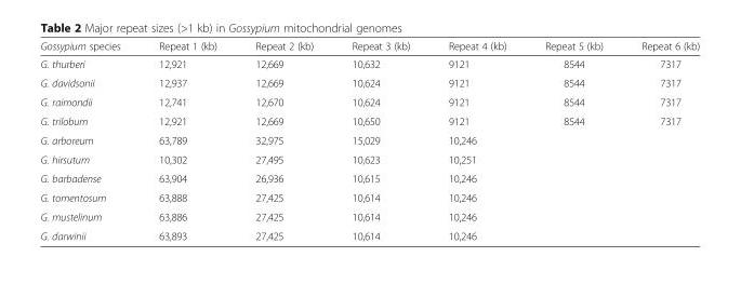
<table><thead><tr><td>Gossypium species</td><td>Repeat 1 (kb)</td><td>Repeat 2 (kb)</td><td>Repeat 3 (kb)</td><td>Repeat 4 (kb)</td><td>Repeat 5 (kb)</td><td>Repeat 6 (kb)</td></tr></thead><tbody><tr><td>G. thurberi</td><td>12,921</td><td>12,669</td><td>10,632</td><td>9121</td><td>8544</td><td>7317</td></tr><tr><td>G. davidsonii</td><td>12,937</td><td>12,669</td><td>10,624</td><td>9121</td><td>8544</td><td>7317</td></tr><tr><td>G. raimondii</td><td>12,741</td><td>12,670</td><td>10,624</td><td>9121</td><td>8544</td><td>7317</td></tr><tr><td>G. trilobum</td><td>12,921</td><td>12,669</td><td>10,650</td><td>9121</td><td>8544</td><td>7317</td></tr><tr><td>G. arboreum</td><td>63,789</td><td>32,975</td><td>15,029</td><td>10,246</td><td></td><td></td></tr><tr><td>G. hirsutum</td><td>10,302</td><td>27,495</td><td>10,623</td><td>10,251</td><td></td><td></td></tr><tr><td>G. barbadense</td><td>63,904</td><td>26,936</td><td>10,615</td><td>10,246</td><td></td><td></td></tr><tr><td>G. tomentosum</td><td>63,888</td><td>27,425</td><td>10,614</td><td>10,246</td><td></td><td></td></tr><tr><td>G. mustelinum</td><td>63,886</td><td>27,425</td><td>10,614</td><td>10,246</td><td></td><td></td></tr><tr><td>G. darwinii</td><td>63,893</td><td>27,425</td><td>10,614</td><td>10,246</td><td></td><td></td></tr></tbody></table>